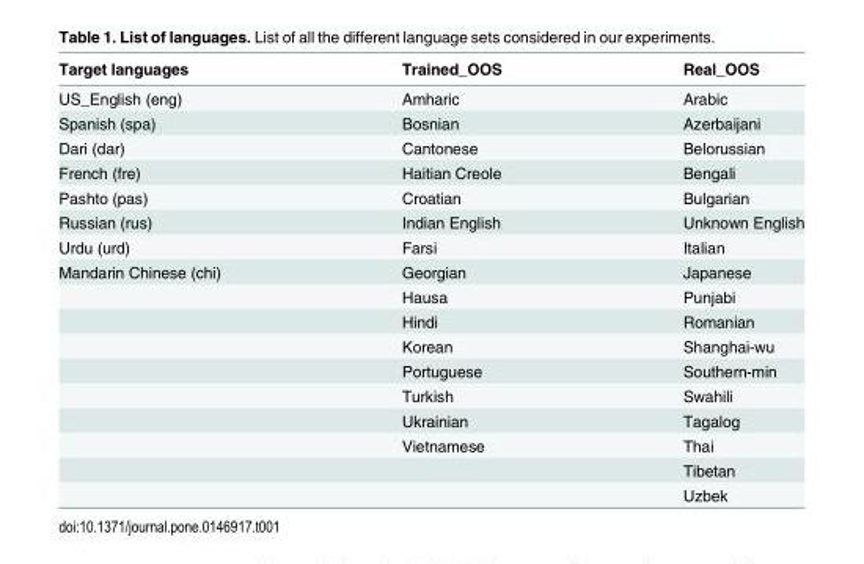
<table><thead><tr><td>Target languages</td><td>Trained_OOS</td><td>Real_OOS</td></tr></thead><tbody><tr><td>US_English (eng)</td><td>Amharic</td><td>Arabic</td></tr><tr><td>Spanish (spa)</td><td>Bosnian</td><td>Azerbaijani</td></tr><tr><td>Dari (dar)</td><td>Cantonese</td><td>Belorussian</td></tr><tr><td>French (fre)</td><td>Haitian Creole</td><td>Bengali</td></tr><tr><td>Pashto (pas)</td><td>Croatian</td><td>Bulgarian</td></tr><tr><td>Russian (rus)</td><td>Indian English</td><td>Unknown English</td></tr><tr><td>Urdu (urd)</td><td>Farsi</td><td>Italian</td></tr><tr><td rowspan="10">Mandarin Chinese (chi)</td><td>Georgian</td><td>Japanese</td></tr><tr><td>Hausa</td><td>Punjabi</td></tr><tr><td>Hindi</td><td>Romanian</td></tr><tr><td>Korean</td><td>Shanghai-wu</td></tr><tr><td>Portuguese</td><td>Southern-min</td></tr><tr><td>Turkish</td><td>Swahili</td></tr><tr><td>Ukrainian</td><td>Tagalog</td></tr><tr><td>Vietnamese</td><td>Thai</td></tr><tr><td></td><td>Tibetan</td></tr><tr><td></td><td>Uzbek</td></tr></tbody></table>